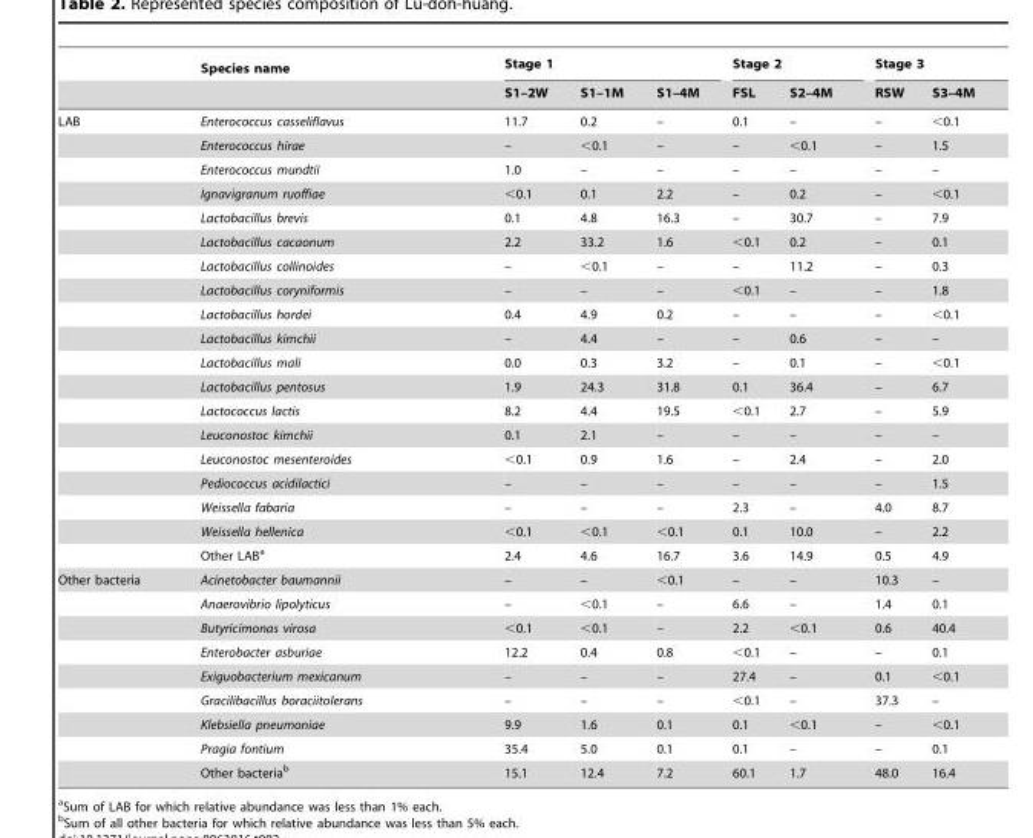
<table><thead><tr><td rowspan="2"></td><td rowspan="2">Species name</td><td colspan="3">Stage 1</td><td colspan="2">Stage 2</td><td colspan="2">Stage 3</td></tr><tr><td>S1–2W</td><td>S1–1M</td><td>S1–4M</td><td>FSL</td><td>S2–4M</td><td>RSW</td><td>S3–4M</td></tr></thead><tbody><tr><td rowspan="19">LAB</td><td>Enterococcus casseliflavus</td><td>11.7</td><td>0.2</td><td>–</td><td>0.1</td><td>–</td><td>–</td><td>&lt;0.1</td></tr><tr><td>Enterococcus hirae</td><td>–</td><td>&lt;0.1</td><td>–</td><td>–</td><td>&lt;0.1</td><td>–</td><td>1.5</td></tr><tr><td>Enterococcus mundtii</td><td>1.0</td><td>–</td><td>–</td><td>–</td><td>–</td><td>–</td><td>–</td></tr><tr><td>Ignavigranum ruoffiae</td><td>&lt;0.1</td><td>0.1</td><td>2.2</td><td>–</td><td>0.2</td><td>–</td><td>&lt;0.1</td></tr><tr><td>Lactobacillus brevis</td><td>0.1</td><td>4.8</td><td>16.3</td><td>–</td><td>30.7</td><td>–</td><td>7.9</td></tr><tr><td>Lactobacillus cacaonum</td><td>2.2</td><td>33.2</td><td>1.6</td><td>&lt;0.1</td><td>0.2</td><td>–</td><td>0.1</td></tr><tr><td>Lactobacillus collinoides</td><td>–</td><td>&lt;0.1</td><td>–</td><td>–</td><td>11.2</td><td>–</td><td>0.3</td></tr><tr><td>Lactobacillus coryniformis</td><td>–</td><td>–</td><td>–</td><td>&lt;0.1</td><td>–</td><td>–</td><td>1.8</td></tr><tr><td>Lactobacillus hordei</td><td>0.4</td><td>4.9</td><td>0.2</td><td>–</td><td>–</td><td>–</td><td>&lt;0.1</td></tr><tr><td>Lactobacillus kimchii</td><td>–</td><td>4.4</td><td>–</td><td>–</td><td>0.6</td><td>–</td><td>–</td></tr><tr><td>Lactobacillus mali</td><td>0.0</td><td>0.3</td><td>3.2</td><td>–</td><td>0.1</td><td>–</td><td>&lt;0.1</td></tr><tr><td>Lactobacillus pentosus</td><td>1.9</td><td>24.3</td><td>31.8</td><td>0.1</td><td>36.4</td><td>–</td><td>6.7</td></tr><tr><td>Lactococcus lactis</td><td>8.2</td><td>4.4</td><td>19.5</td><td>&lt;0.1</td><td>2.7</td><td>–</td><td>5.9</td></tr><tr><td>Leuconostoc kimchii</td><td>0.1</td><td>2.1</td><td>–</td><td>–</td><td>–</td><td>–</td><td>–</td></tr><tr><td>Leuconostoc mesenteroides</td><td>&lt;0.1</td><td>0.9</td><td>1.6</td><td>–</td><td>2.4</td><td>–</td><td>2.0</td></tr><tr><td>Pediococcus acidilactici</td><td>–</td><td>–</td><td>–</td><td>–</td><td>–</td><td>–</td><td>1.5</td></tr><tr><td>Weissella fabaria</td><td>–</td><td>–</td><td>–</td><td>2.3</td><td>–</td><td>4.0</td><td>8.7</td></tr><tr><td>Weissella hellenica</td><td>&lt;0.1</td><td>&lt;0.1</td><td>&lt;0.1</td><td>0.1</td><td>10.0</td><td>–</td><td>2.2</td></tr><tr><td>Other LAB<sup>a</sup></td><td>2.4</td><td>4.6</td><td>16.7</td><td>3.6</td><td>14.9</td><td>0.5</td><td>4.9</td></tr><tr><td rowspan="9">Other bacteria</td><td>Acinetobacter baumannii</td><td>–</td><td>–</td><td>&lt;0.1</td><td>–</td><td>–</td><td>10.3</td><td>–</td></tr><tr><td>Anaerovibrio lipolyticus</td><td>–</td><td>&lt;0.1</td><td>–</td><td>6.6</td><td>–</td><td>1.4</td><td>0.1</td></tr><tr><td>Butyricimonas virosa</td><td>&lt;0.1</td><td>&lt;0.1</td><td>–</td><td>2.2</td><td>&lt;0.1</td><td>0.6</td><td>40.4</td></tr><tr><td>Enterobacter asburiae</td><td>12.2</td><td>0.4</td><td>0.8</td><td>&lt;0.1</td><td>–</td><td>–</td><td>0.1</td></tr><tr><td>Exiguobacterium mexicanum</td><td>–</td><td>–</td><td>–</td><td>27.4</td><td>–</td><td>0.1</td><td>&lt;0.1</td></tr><tr><td>Gracilibacillus boraciitolerans</td><td>–</td><td>–</td><td>–</td><td>&lt;0.1</td><td>–</td><td>37.3</td><td>–</td></tr><tr><td>Klebsiella pneumoniae</td><td>9.9</td><td>1.6</td><td>0.1</td><td>0.1</td><td>&lt;0.1</td><td>–</td><td>&lt;0.1</td></tr><tr><td>Pragia fontium</td><td>35.4</td><td>5.0</td><td>0.1</td><td>0.1</td><td>–</td><td>–</td><td>0.1</td></tr><tr><td>Other bacteria<sup>b</sup></td><td>15.1</td><td>12.4</td><td>7.2</td><td>60.1</td><td>1.7</td><td>48.0</td><td>16.4</td></tr></tbody></table>